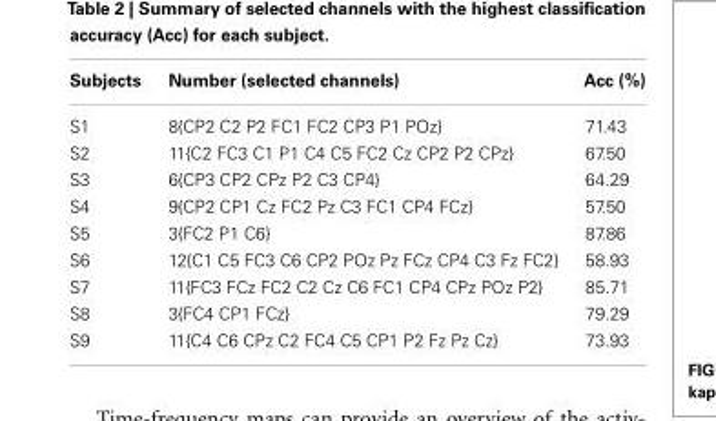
<table><thead><tr><td>Subjects</td><td>Number (selected channels)</td><td>Acc (%)</td></tr></thead><tbody><tr><td>S1</td><td>8{CP2 C2 P2 FC1 FC2 CP3 P1 POz}</td><td>71.43</td></tr><tr><td>S2</td><td>11{C2 FC3 C1 P1 C4 C5 FC2 Cz CP2 P2 CPz}</td><td>67.50</td></tr><tr><td>S3</td><td>6{CP3 CP2 CPz P2 C3 CP4}</td><td>64.29</td></tr><tr><td>S4</td><td>9{CP2 CP1 Cz FC2 Pz C3 FC1 CP4 FCz}</td><td>57.50</td></tr><tr><td>S5</td><td>3{FC2 P1 C6}</td><td>87.86</td></tr><tr><td>S6</td><td>12{C1 C5 FC3 C6 CP2 POz Pz FCz CP4 C3 Fz FC2}</td><td>58.93</td></tr><tr><td>S7</td><td>11{FC3 FCz FC2 C2 Cz C6 FC1 CP4 CPz POz P2}</td><td>85.71</td></tr><tr><td>S8</td><td>3{FC4 CP1 FCz}</td><td>79.29</td></tr><tr><td>S9</td><td>11{C4 C6 CPz C2 FC4 C5 CP1 P2 Fz Pz Cz}</td><td>73.93</td></tr></tbody></table>